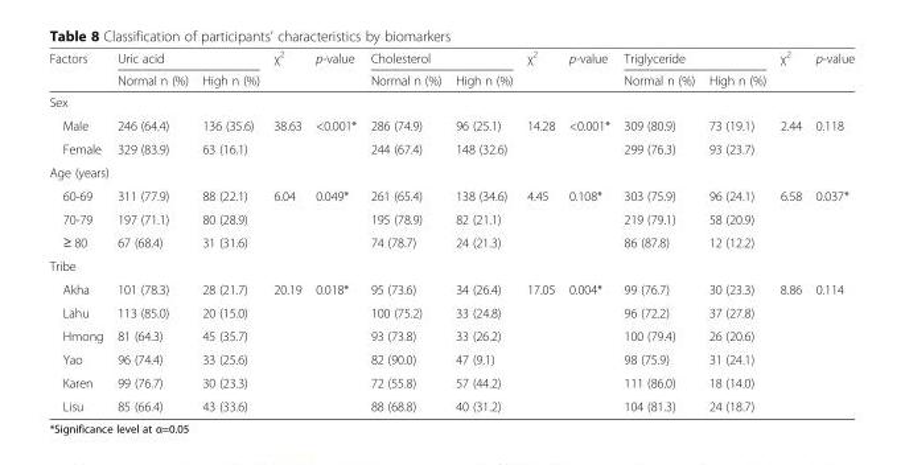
<table><thead><tr><td rowspan="2">Factors</td><td colspan="2">Uric acid</td><td rowspan="2">χ<sup>2</sup></td><td rowspan="2">p-value</td><td colspan="2">Cholesterol</td><td rowspan="2">χ<sup>2</sup></td><td rowspan="2">p-value</td><td colspan="2">Triglyceride</td><td rowspan="2">χ<sup>2</sup></td><td rowspan="2">p-value</td></tr><tr><td>Normal n (%)</td><td>High n (%)</td><td>Normal n (%)</td><td>High n (%)</td><td>Normal n (%)</td><td>High n (%)</td></tr></thead><tbody><tr><td colspan="13">Sex</td></tr><tr><td>Male</td><td>246 (64.4)</td><td>136 (35.6)</td><td>38.63</td><td>&lt;0.001*</td><td>286 (74.9)</td><td>96 (25.1)</td><td>14.28</td><td>&lt;0.001*</td><td>309 (80.9)</td><td>73 (19.1)</td><td>2.44</td><td>0.118</td></tr><tr><td>Female</td><td>329 (83.9)</td><td>63 (16.1)</td><td></td><td></td><td>244 (67.4)</td><td>148 (32.6)</td><td></td><td></td><td>299 (76.3)</td><td>93 (23.7)</td><td></td><td></td></tr><tr><td colspan="13">Age (years)</td></tr><tr><td>60-69</td><td>311 (77.9)</td><td>88 (22.1)</td><td>6.04</td><td>0.049*</td><td>261 (65.4)</td><td>138 (34.6)</td><td>4.45</td><td>0.108*</td><td>303 (75.9)</td><td>96 (24.1)</td><td>6.58</td><td>0.037*</td></tr><tr><td>70-79</td><td>197 (71.1)</td><td>80 (28.9)</td><td></td><td></td><td>195 (78.9)</td><td>82 (21.1)</td><td></td><td></td><td>219 (79.1)</td><td>58 (20.9)</td><td></td><td></td></tr><tr><td>≥ 80</td><td>67 (68.4)</td><td>31 (31.6)</td><td></td><td></td><td>74 (78.7)</td><td>24 (21.3)</td><td></td><td></td><td>86 (87.8)</td><td>12 (12.2)</td><td></td><td></td></tr><tr><td colspan="13">Tribe</td></tr><tr><td>Akha</td><td>101 (78.3)</td><td>28 (21.7)</td><td>20.19</td><td>0.018*</td><td>95 (73.6)</td><td>34 (26.4)</td><td>17.05</td><td>0.004*</td><td>99 (76.7)</td><td>30 (23.3)</td><td>8.86</td><td>0.114</td></tr><tr><td>Lahu</td><td>113 (85.0)</td><td>20 (15.0)</td><td></td><td></td><td>100 (75.2)</td><td>33 (24.8)</td><td></td><td></td><td>96 (72.2)</td><td>37 (27.8)</td><td></td><td></td></tr><tr><td>Hmong</td><td>81 (64.3)</td><td>45 (35.7)</td><td></td><td></td><td>93 (73.8)</td><td>33 (26.2)</td><td></td><td></td><td>100 (79.4)</td><td>26 (20.6)</td><td></td><td></td></tr><tr><td>Yao</td><td>96 (74.4)</td><td>33 (25.6)</td><td></td><td></td><td>82 (90.0)</td><td>47 (9.1)</td><td></td><td></td><td>98 (75.9)</td><td>31 (24.1)</td><td></td><td></td></tr><tr><td>Karen</td><td>99 (76.7)</td><td>30 (23.3)</td><td></td><td></td><td>72 (55.8)</td><td>57 (44.2)</td><td></td><td></td><td>111 (86.0)</td><td>18 (14.0)</td><td></td><td></td></tr><tr><td>Lisu</td><td>85 (66.4)</td><td>43 (33.6)</td><td></td><td></td><td>88 (68.8)</td><td>40 (31.2)</td><td></td><td></td><td>104 (81.3)</td><td>24 (18.7)</td><td></td><td></td></tr></tbody></table>